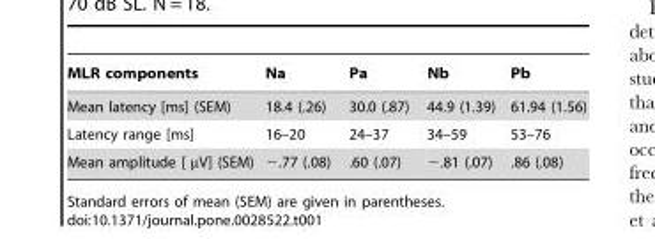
<table><thead><tr><td>MLR components</td><td>Na</td><td>Pa</td><td>Nb</td><td>Pb</td></tr></thead><tbody><tr><td>Mean latency [ms] (SEM)</td><td>18.4 (.26)</td><td>30.0 (.87)</td><td>44.9 (1.39)</td><td>61.94 (1.56)</td></tr><tr><td>Latency range [ms]</td><td>16–20</td><td>24–37</td><td>34–59</td><td>53–76</td></tr><tr><td>Mean amplitude [ µV] (SEM)</td><td>−.77 (.08)</td><td>.60 (.07)</td><td>−.81 (.07)</td><td>.86 (.08)</td></tr></tbody></table>